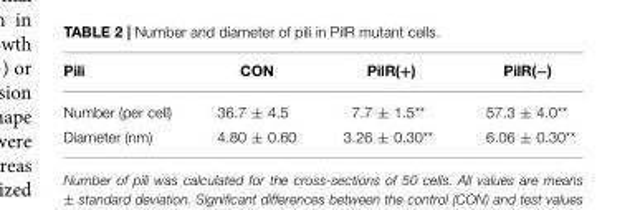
<table><thead><tr><td>Pili</td><td>CON</td><td>PilR(+)</td><td>PilR(−)</td></tr></thead><tbody><tr><td>Number (per cell)</td><td>36.7 ± 4.5</td><td>7.7 ± 1.5**</td><td>57.3 ± 4.0**</td></tr><tr><td>Diameter (nm)</td><td>4.80 ± 0.60</td><td>3.26 ± 0.30**</td><td>6.06 ± 0.30**</td></tr></tbody></table>